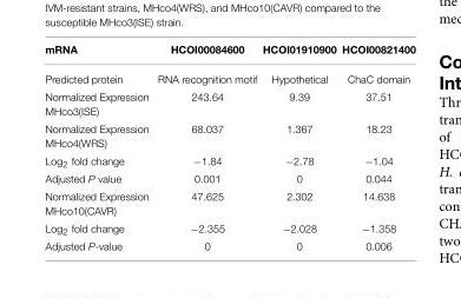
<table><thead><tr><td>mRNA</td><td>HCOI00084600</td><td>HCOI01910900</td><td>HCOI00821400</td></tr></thead><tbody><tr><td>Predicted protein</td><td>RNA recognition motif</td><td>Hypothetical</td><td>ChaC domain</td></tr><tr><td>Normalized Expression MHco3(ISE)</td><td>243.64</td><td>9.39</td><td>37.51</td></tr><tr><td>Normalized Expression MHco4(WRS)</td><td>68.037</td><td>1.367</td><td>18.23</td></tr><tr><td>Log<sub>2</sub> fold change</td><td>−1.84</td><td>−2.78</td><td>−1.04</td></tr><tr><td>Adjusted P value</td><td>0.001</td><td>0</td><td>0.044</td></tr><tr><td>Normalized Expression MHco10(CAVR)</td><td>47.625</td><td>2.302</td><td>14.638</td></tr><tr><td>Log<sub>2</sub> fold change</td><td>−2.355</td><td>−2.028</td><td>−1.358</td></tr><tr><td>Adjusted P-value</td><td>0</td><td>0</td><td>0.006</td></tr></tbody></table>